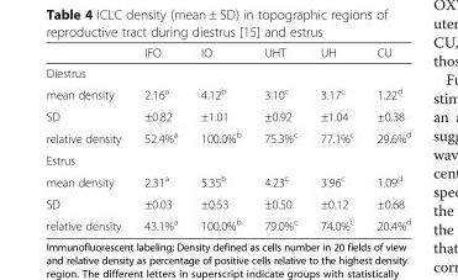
<table><thead><tr><td></td><td>IFO</td><td>IO</td><td>UHT</td><td>UH</td><td>CU</td></tr></thead><tbody><tr><td colspan="6">Diestrus</td></tr><tr><td>mean density</td><td>2.16<sup>a</sup></td><td>4.12<sup>b</sup></td><td>3.10<sup>c</sup></td><td>3.17<sup>c</sup></td><td>1.22<sup>d</sup></td></tr><tr><td>SD</td><td>±0.82</td><td>±1.01</td><td>±0.92</td><td>±1.04</td><td>±0.38</td></tr><tr><td>relative density</td><td>52.4%<sup>a</sup></td><td>100.0%<sup>b</sup></td><td>75.3%<sup>c</sup></td><td>77.1%<sup>c</sup></td><td>29.6%<sup>d</sup></td></tr><tr><td colspan="6">Estrus</td></tr><tr><td>mean density</td><td>2.31<sup>a</sup></td><td>5.35<sup>b</sup></td><td>4.23<sup>c</sup></td><td>3.96<sup>c</sup></td><td>1.09<sup>d</sup></td></tr><tr><td>SD</td><td>±0.03</td><td>±0.53</td><td>±0.50</td><td>±0.12</td><td>±0.68</td></tr><tr><td>relative density</td><td>43.1%<sup>a</sup></td><td>100.0%<sup>b</sup></td><td>79.0%<sup>c</sup></td><td>74.0%<sup>c</sup></td><td>20.4%<sup>d</sup></td></tr></tbody></table>